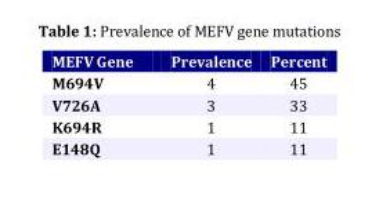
<table><tbody><tr><td>MEFV Gene</td><td>Prevalence</td><td>Percent</td></tr><tr><td>M694V</td><td>4</td><td>45</td></tr><tr><td>V726A</td><td>3</td><td>33</td></tr><tr><td>K694R</td><td>1</td><td>11</td></tr><tr><td>E148Q</td><td>1</td><td>11</td></tr></tbody></table>